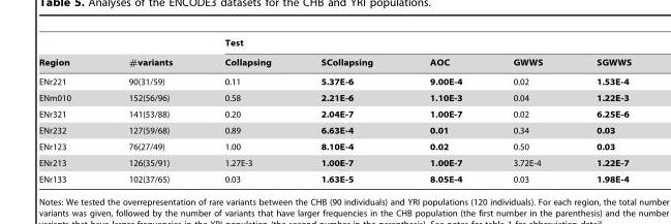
<table><thead><tr><td rowspan="2">Region</td><td rowspan="2">#variants</td><td colspan="5">Test</td></tr><tr><td>Collapsing</td><td>SCollapsing</td><td>AOC</td><td>GWWS</td><td>SGWWS</td></tr></thead><tbody><tr><td>ENr221</td><td>90(31/59)</td><td>0.11</td><td>5.37E-6</td><td>9.00E-4</td><td>0.02</td><td>1.53E-4</td></tr><tr><td>ENm010</td><td>152(56/96)</td><td>0.58</td><td>2.21E-6</td><td>1.10E-3</td><td>0.04</td><td>1.22E-3</td></tr><tr><td>ENr321</td><td>141(53/88)</td><td>0.20</td><td>2.04E-7</td><td>1.00E-7</td><td>0.02</td><td>6.25E-6</td></tr><tr><td>ENr232</td><td>127(59/68)</td><td>0.89</td><td>6.63E-4</td><td>0.01</td><td>0.34</td><td>0.03</td></tr><tr><td>ENr123</td><td>76(27/49)</td><td>1.00</td><td>8.10E-4</td><td>0.02</td><td>0.50</td><td>0.03</td></tr><tr><td>ENr213</td><td>126(35/91)</td><td>1.27E-3</td><td>1.00E-7</td><td>1.00E-7</td><td>3.72E-4</td><td>1.22E-7</td></tr><tr><td>ENr133</td><td>102(37/65)</td><td>0.03</td><td>1.63E-5</td><td>8.05E-4</td><td>0.03</td><td>1.98E-4</td></tr></tbody></table>